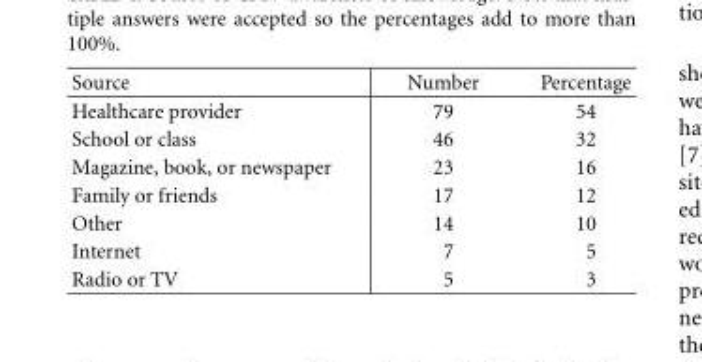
<table><tbody><tr><td>Source</td><td>Number</td><td>Percentage</td></tr><tr><td>Healthcare provider</td><td>79</td><td>54</td></tr><tr><td>School or class</td><td>46</td><td>32</td></tr><tr><td>Magazine, book, or newspaper</td><td>23</td><td>16</td></tr><tr><td>Family or friends</td><td>17</td><td>12</td></tr><tr><td>Other</td><td>14</td><td>10</td></tr><tr><td>Internet</td><td>7</td><td>5</td></tr><tr><td>Radio or TV</td><td>5</td><td>3</td></tr></tbody></table>